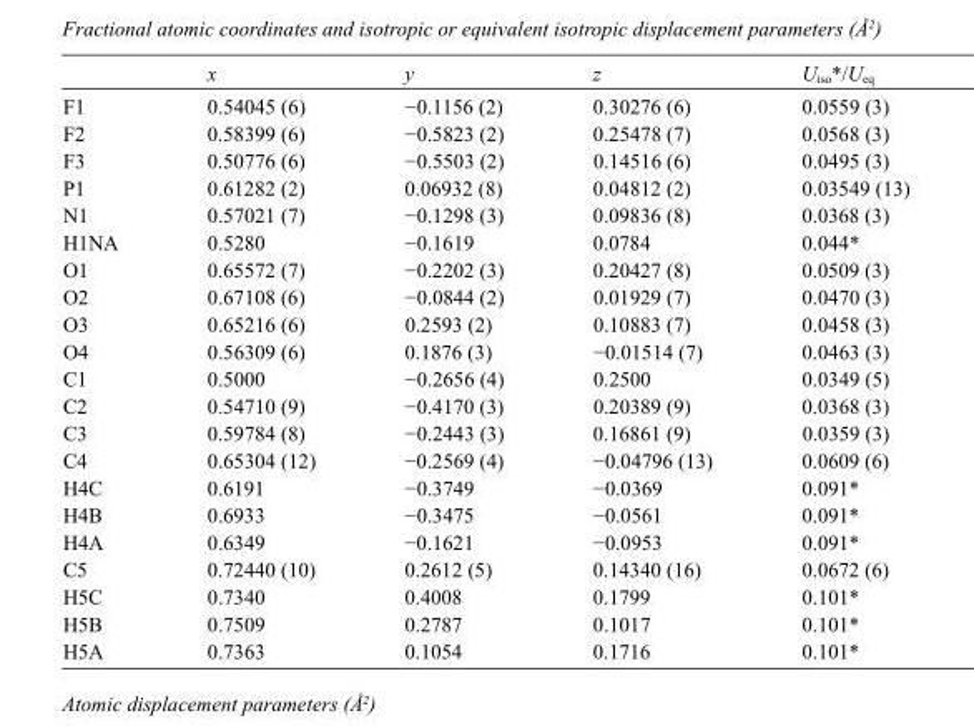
<table><thead><tr><td></td><td>x</td><td>y</td><td>z</td><td>U<sub>iso</sub>*/U<sub>eq</sub></td></tr></thead><tbody><tr><td>F1</td><td>0.54045 (6)</td><td>−0.1156 (2)</td><td>0.30276 (6)</td><td>0.0559 (3)</td></tr><tr><td>F2</td><td>0.58399 (6)</td><td>−0.5823 (2)</td><td>0.25478 (7)</td><td>0.0568 (3)</td></tr><tr><td>F3</td><td>0.50776 (6)</td><td>−0.5503 (2)</td><td>0.14516 (6)</td><td>0.0495 (3)</td></tr><tr><td>P1</td><td>0.61282 (2)</td><td>0.06932 (8)</td><td>0.04812 (2)</td><td>0.03549 (13)</td></tr><tr><td>N1</td><td>0.57021 (7)</td><td>−0.1298 (3)</td><td>0.09836 (8)</td><td>0.0368 (3)</td></tr><tr><td>H1NA</td><td>0.5280</td><td>−0.1619</td><td>0.0784</td><td>0.044*</td></tr><tr><td>O1</td><td>0.65572 (7)</td><td>−0.2202 (3)</td><td>0.20427 (8)</td><td>0.0509 (3)</td></tr><tr><td>O2</td><td>0.67108 (6)</td><td>−0.0844 (2)</td><td>0.01929 (7)</td><td>0.0470 (3)</td></tr><tr><td>O3</td><td>0.65216 (6)</td><td>0.2593 (2)</td><td>0.10883 (7)</td><td>0.0458 (3)</td></tr><tr><td>O4</td><td>0.56309 (6)</td><td>0.1876 (3)</td><td>−0.01514 (7)</td><td>0.0463 (3)</td></tr><tr><td>C1</td><td>0.5000</td><td>−0.2656 (4)</td><td>0.2500</td><td>0.0349 (5)</td></tr><tr><td>C2</td><td>0.54710 (9)</td><td>−0.4170 (3)</td><td>0.20389 (9)</td><td>0.0368 (3)</td></tr><tr><td>C3</td><td>0.59784 (8)</td><td>−0.2443 (3)</td><td>0.16861 (9)</td><td>0.0359 (3)</td></tr><tr><td>C4</td><td>0.65304 (12)</td><td>−0.2569 (4)</td><td>−0.04796 (13)</td><td>0.0609 (6)</td></tr><tr><td>H4C</td><td>0.6191</td><td>−0.3749</td><td>−0.0369</td><td>0.091*</td></tr><tr><td>H4B</td><td>0.6933</td><td>−0.3475</td><td>−0.0561</td><td>0.091*</td></tr><tr><td>H4A</td><td>0.6349</td><td>−0.1621</td><td>−0.0953</td><td>0.091*</td></tr><tr><td>C5</td><td>0.72440 (10)</td><td>0.2612 (5)</td><td>0.14340 (16)</td><td>0.0672 (6)</td></tr><tr><td>H5C</td><td>0.7340</td><td>0.4008</td><td>0.1799</td><td>0.101*</td></tr><tr><td>H5B</td><td>0.7509</td><td>0.2787</td><td>0.1017</td><td>0.101*</td></tr><tr><td>H5A</td><td>0.7363</td><td>0.1054</td><td>0.1716</td><td>0.101*</td></tr></tbody></table>